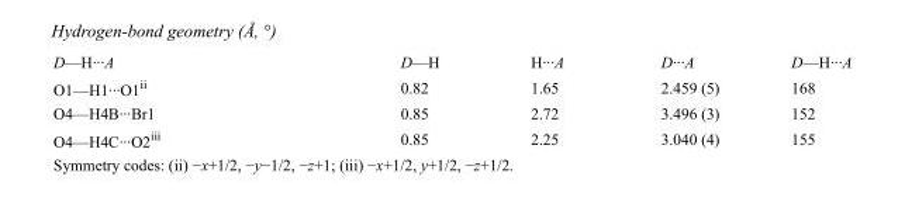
<table><tbody><tr><td>D—H···A</td><td>D—H</td><td>H···A</td><td>D···A</td><td>D—H···A</td></tr><tr><td>O1—H1···O1<sup>ii</sup></td><td>0.82</td><td>1.65</td><td>2.459 (5)</td><td>168</td></tr><tr><td>O4—H4B···Br1</td><td>0.85</td><td>2.72</td><td>3.496 (3)</td><td>152</td></tr><tr><td>O4—H4C···O2<sup>iii</sup></td><td>0.85</td><td>2.25</td><td>3.040 (4)</td><td>155</td></tr></tbody></table>